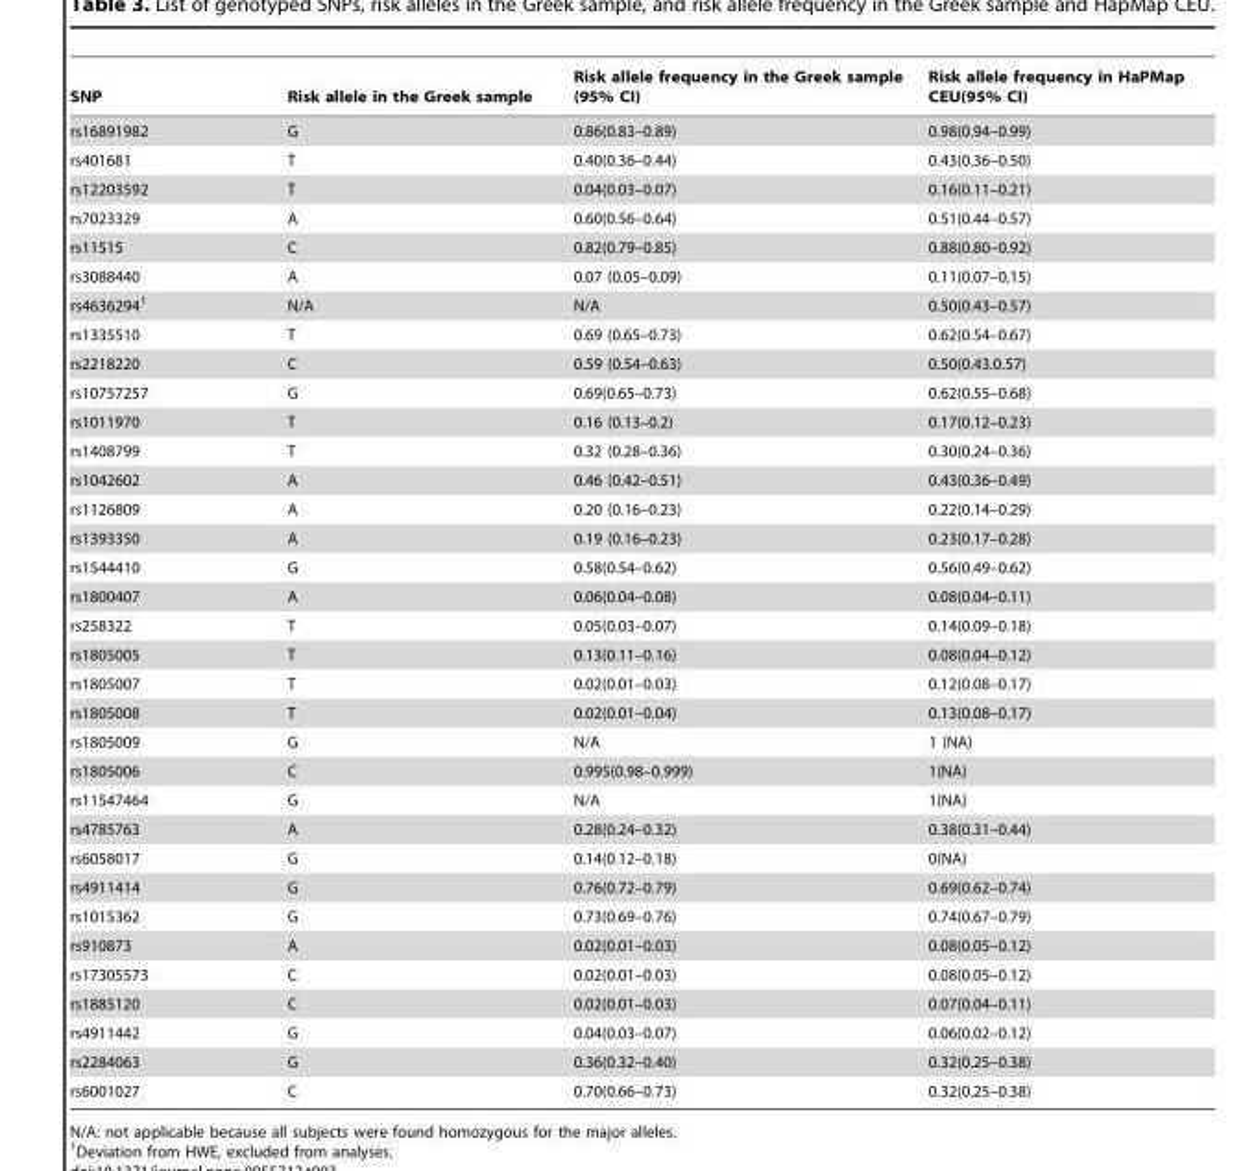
<table><thead><tr><td>SNP</td><td>Risk allele in the Greek sample</td><td>Risk allele frequency in the Greek sample (95% CI)</td><td>Risk allele frequency in HaPMap CEU(95% CI)</td></tr></thead><tbody><tr><td>rs16891982</td><td>G</td><td>0.86(0.83–0.89)</td><td>0.98(0.94–0.99)</td></tr><tr><td>rs401681</td><td>T</td><td>0.40(0.36–0.44)</td><td>0.43(0.36–0.50)</td></tr><tr><td>rs12203592</td><td>T</td><td>0.04(0.03–0.07)</td><td>0.16(0.11–0.21)</td></tr><tr><td>rs7023329</td><td>A</td><td>0.60(0.56–0.64)</td><td>0.51(0.44–0.57)</td></tr><tr><td>rs11515</td><td>C</td><td>0.82(0.79–0.85)</td><td>0.88(0.80–0.92)</td></tr><tr><td>rs3088440</td><td>A</td><td>0.07 (0.05–0.09)</td><td>0.11(0.07–0,15)</td></tr><tr><td>rs4636294<sup>1</sup></td><td>N/A</td><td>N/A</td><td>0.50(0.43–0.57)</td></tr><tr><td>rs1335510</td><td>T</td><td>0.69 (0.65–0.73)</td><td>0.62(0.54–0.67)</td></tr><tr><td>rs2218220</td><td>C</td><td>0.59 (0.54–0.63)</td><td>0.50(0.43.0.57)</td></tr><tr><td>rs10757257</td><td>G</td><td>0.69(0.65–0.73)</td><td>0.62(0.55–0.68)</td></tr><tr><td>rs1011970</td><td>T</td><td>0.16 (0.13–0.2)</td><td>0.17(0.12–0.23)</td></tr><tr><td>rs1408799</td><td>T</td><td>0.32 (0.28–0.36)</td><td>0.30(0.24–0.36)</td></tr><tr><td>rs1042602</td><td>A</td><td>0.46 (0.42–0.51)</td><td>0.43(0.36–0.49)</td></tr><tr><td>rs1126809</td><td>A</td><td>0.20 (0.16–0.23)</td><td>0.22(0.14–0.29)</td></tr><tr><td>rs1393350</td><td>A</td><td>0.19 (0.16–0.23)</td><td>0.23(0.17–0.28)</td></tr><tr><td>rs1544410</td><td>G</td><td>0.58(0.54–0.62)</td><td>0.56(0.49–0.62)</td></tr><tr><td>rs1800407</td><td>A</td><td>0.06(0.04–0.08)</td><td>0.08(0.04–0.11)</td></tr><tr><td>rs258322</td><td>T</td><td>0.05(0.03–0.07)</td><td>0.14(0.09–0.18)</td></tr><tr><td>rs1805005</td><td>T</td><td>0.13(0.11–0.16)</td><td>0.08(0.04–0.12)</td></tr><tr><td>rs1805007</td><td>T</td><td>0.02(0.01–0.03)</td><td>0.12(0.08–0.17)</td></tr><tr><td>rs1805008</td><td>T</td><td>0.02(0.01–0.04)</td><td>0.13(0.08–0.17)</td></tr><tr><td>rs1805009</td><td>G</td><td>N/A</td><td>1 (NA)</td></tr><tr><td>rs1805006</td><td>C</td><td>0.995(0.98–0.999)</td><td>1(NA)</td></tr><tr><td>rs11547464</td><td>G</td><td>N/A</td><td>1(NA)</td></tr><tr><td>rs4785763</td><td>A</td><td>0.28(0.24–0.32)</td><td>0.38(0.31–0.44)</td></tr><tr><td>rs6058017</td><td>G</td><td>0.14(0.12–0.18)</td><td>0(NA)</td></tr><tr><td>rs4911414</td><td>G</td><td>0.76(0.72–0.79)</td><td>0.69(0.62–0.74)</td></tr><tr><td>rs1015362</td><td>G</td><td>0.73(0.69–0.76)</td><td>0.74(0.67–0.79)</td></tr><tr><td>rs910873</td><td>A</td><td>0.02(0.01–0.03)</td><td>0.08(0.05–0.12)</td></tr><tr><td>rs17305573</td><td>C</td><td>0.02(0.01–0.03)</td><td>0.08(0.05–0.12)</td></tr><tr><td>rs1885120</td><td>C</td><td>0.02(0.01–0.03)</td><td>0.07(0.04–0.11)</td></tr><tr><td>rs4911442</td><td>G</td><td>0.04(0.03–0.07)</td><td>0.06(0.02–0.12)</td></tr><tr><td>rs2284063</td><td>G</td><td>0.36(0.32–0.40)</td><td>0.32(0.25–0.38)</td></tr><tr><td>rs6001027</td><td>C</td><td>0.70(0.66–0.73)</td><td>0.32(0.25–0.38)</td></tr></tbody></table>